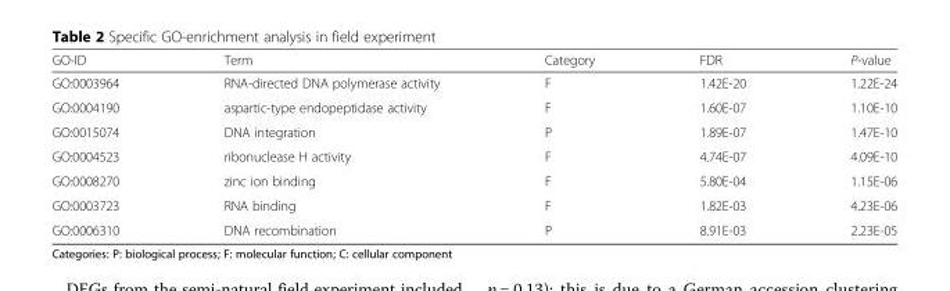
<table><thead><tr><td>GO-ID</td><td>Term</td><td>Category</td><td>FDR</td><td>P-value</td></tr></thead><tbody><tr><td>GO:0003964</td><td>RNA-directed DNA polymerase activity</td><td>F</td><td>1.42E-20</td><td>1.22E-24</td></tr><tr><td>GO:0004190</td><td>aspartic-type endopeptidase activity</td><td>F</td><td>1.60E-07</td><td>1.10E-10</td></tr><tr><td>GO:0015074</td><td>DNA integration</td><td>P</td><td>1.89E-07</td><td>1.47E-10</td></tr><tr><td>GO:0004523</td><td>ribonuclease H activity</td><td>F</td><td>4.74E-07</td><td>4.09E-10</td></tr><tr><td>GO:0008270</td><td>zinc ion binding</td><td>F</td><td>5.80E-04</td><td>1.15E-06</td></tr><tr><td>GO:0003723</td><td>RNA binding</td><td>F</td><td>1.82E-03</td><td>4.23E-06</td></tr><tr><td>GO:0006310</td><td>DNA recombination</td><td>P</td><td>8.91E-03</td><td>2.23E-05</td></tr></tbody></table>